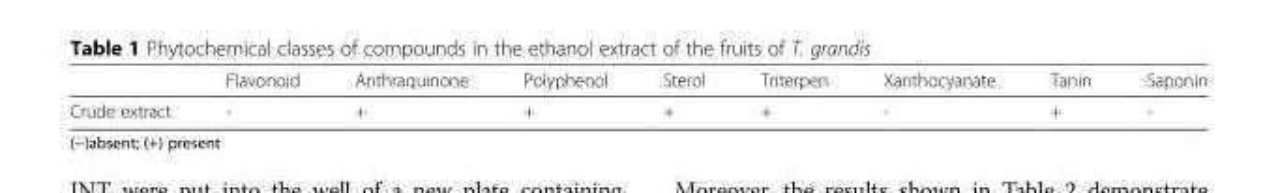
<table><thead><tr><td></td><td>Flavonoid</td><td>Anthraquinone</td><td>Polyphenol</td><td>Sterol</td><td>Triterpen</td><td>Xanthocyanate</td><td>Tanin</td><td>Saponin</td></tr></thead><tbody><tr><td>Crude extract</td><td>-</td><td>+</td><td>+</td><td>+</td><td>+</td><td>-</td><td>+</td><td>-</td></tr></tbody></table>